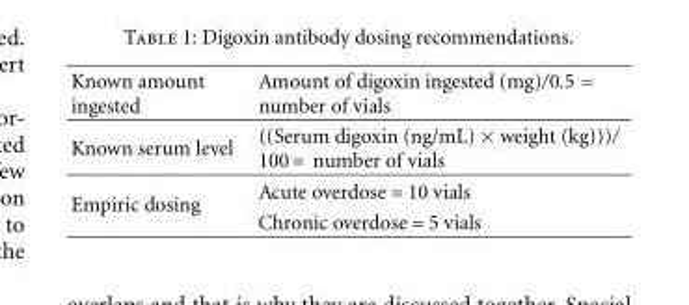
<table><thead><tr><td>Known amount ingested</td><td>Amount of digoxin ingested (mg)/0.5 = number of vials</td></tr></thead><tbody><tr><td>Known serum level</td><td>((Serum digoxin (ng/mL) × weight (kg)))/ 100 = number of vials</td></tr><tr><td rowspan="2">Empiric dosing</td><td>Acute overdose = 10 vials</td></tr><tr><td>Chronic overdose = 5 vials</td></tr></tbody></table>